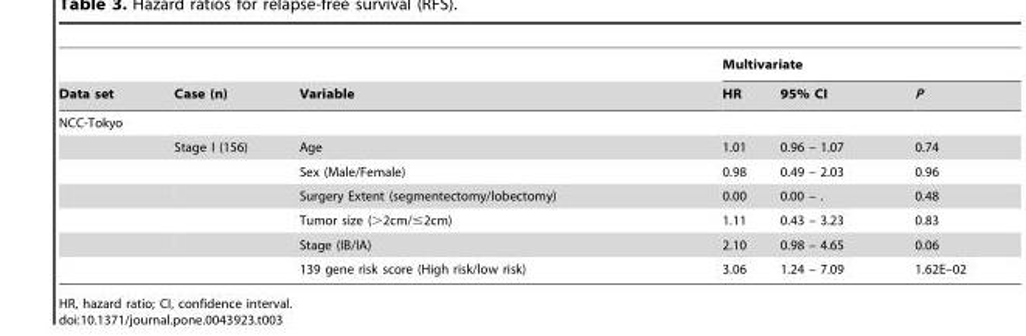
<table><thead><tr><td rowspan="2">Data set</td><td rowspan="2">Case (n)</td><td rowspan="2">Variable</td><td colspan="3">Multivariate</td></tr><tr><td>HR</td><td>95% CI</td><td>P</td></tr></thead><tbody><tr><td colspan="6">NCC-Tokyo</td></tr><tr><td></td><td>Stage I (156)</td><td>Age</td><td>1.01</td><td>0.96 – 1.07</td><td>0.74</td></tr><tr><td></td><td></td><td>Sex (Male/Female)</td><td>0.98</td><td>0.49 – 2.03</td><td>0.96</td></tr><tr><td></td><td></td><td>Surgery Extent (segmentectomy/lobectomy)</td><td>0.00</td><td>0.00 – .</td><td>0.48</td></tr><tr><td></td><td></td><td>Tumor size (&gt;2cm/≤2cm)</td><td>1.11</td><td>0.43 – 3.23</td><td>0.83</td></tr><tr><td></td><td></td><td>Stage (IB/IA)</td><td>2.10</td><td>0.98 – 4.65</td><td>0.06</td></tr><tr><td></td><td></td><td>139 gene risk score (High risk/low risk)</td><td>3.06</td><td>1.24 – 7.09</td><td>1.62E–02</td></tr></tbody></table>